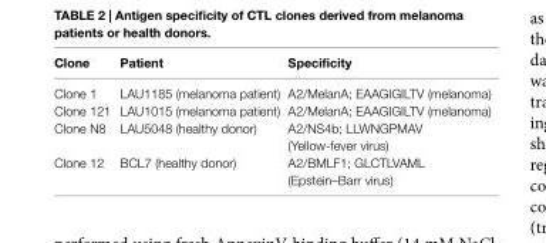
<table><thead><tr><td>Clone</td><td>Patient</td><td>specificity</td></tr></thead><tbody><tr><td>Clone 1</td><td>LAU1185 (melanoma patient)</td><td>A2/MelanA; EAAGIGILTV (melanoma)</td></tr><tr><td>Clone 121</td><td>LAU1015 (melanoma patient)</td><td>A2/MelanA; EAAGIGILTV (melanoma)</td></tr><tr><td>Clone N8</td><td>LAU5048 (healthy donor)</td><td>A2/NS4b; LLWNGPMAV (Yellow-fever virus)</td></tr><tr><td>Clone 12</td><td>BCL7 (healthy donor)</td><td>A2/BMLF1; GLCTLVAML (Epstein–Barr virus)</td></tr></tbody></table>